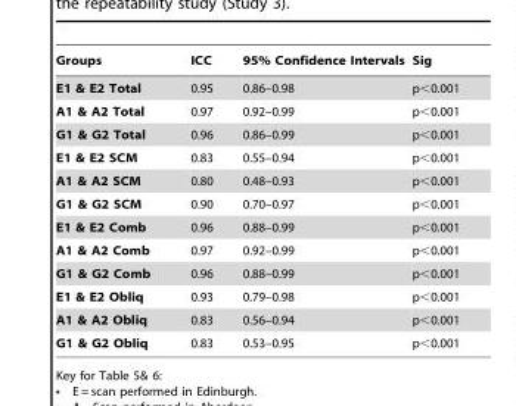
<table><thead><tr><td>Groups</td><td>ICC</td><td>95% Confidence Intervals</td><td>Sig</td></tr></thead><tbody><tr><td>E1 &amp; E2 Total</td><td>0.95</td><td>0.86–0.98</td><td>p&lt;0.001</td></tr><tr><td>A1 &amp; A2 Total</td><td>0.97</td><td>0.92–0.99</td><td>p&lt;0.001</td></tr><tr><td>G1 &amp; G2 Total</td><td>0.96</td><td>0.86–0.99</td><td>p&lt;0.001</td></tr><tr><td>E1 &amp; E2 SCM</td><td>0.83</td><td>0.55–0.94</td><td>p&lt;0.001</td></tr><tr><td>A1 &amp; A2 SCM</td><td>0.80</td><td>0.48–0.93</td><td>p&lt;0.001</td></tr><tr><td>G1 &amp; G2 SCM</td><td>0.90</td><td>0.70–0.97</td><td>p&lt;0.001</td></tr><tr><td>E1 &amp; E2 Comb</td><td>0.96</td><td>0.88–0.99</td><td>p&lt;0.001</td></tr><tr><td>A1 &amp; A2 Comb</td><td>0.97</td><td>0.92–0.99</td><td>p&lt;0.001</td></tr><tr><td>G1 &amp; G2 Comb</td><td>0.96</td><td>0.88–0.99</td><td>p&lt;0.001</td></tr><tr><td>E1 &amp; E2 Obliq</td><td>0.93</td><td>0.79–0.98</td><td>p&lt;0.001</td></tr><tr><td>A1 &amp; A2 Obliq</td><td>0.83</td><td>0.56–0.94</td><td>p&lt;0.001</td></tr><tr><td>G1 &amp; G2 Obliq</td><td>0.83</td><td>0.53–0.95</td><td>p&lt;0.001</td></tr></tbody></table>